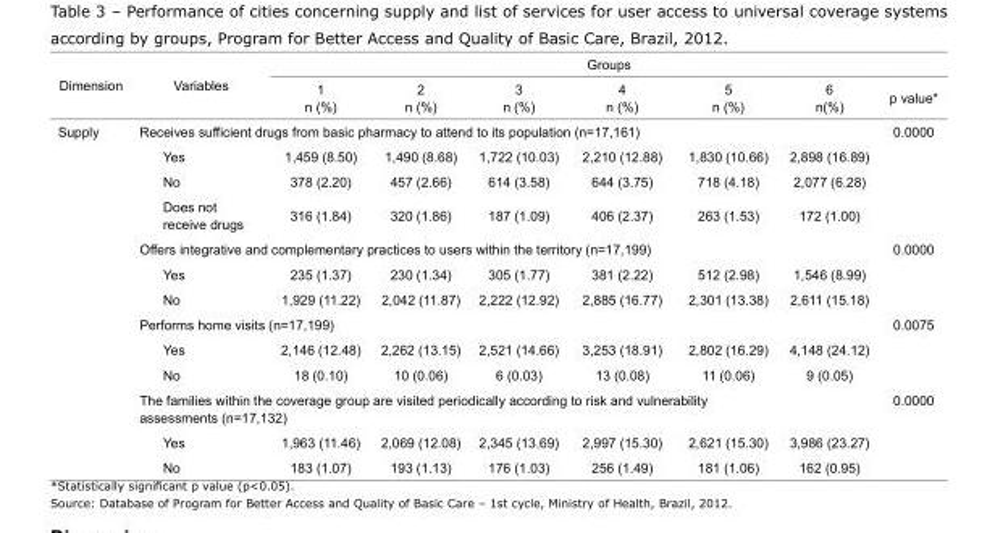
<table><thead><tr><td rowspan="2">Dimension</td><td rowspan="2">Variables</td><td colspan="7">Groups</td></tr><tr><td>1 n (%)</td><td>2 n (%)</td><td>3 n (%)</td><td>4 n (%)</td><td>5 n (%)</td><td>6 n(%)</td><td>p value*</td></tr></thead><tbody><tr><td rowspan="13">Supply</td><td colspan="7">Receives sufficient drugs from basic pharmacy to attend to its population (n=17,161)</td><td>0.0000</td></tr><tr><td>Yes</td><td>1,459 (8.50)</td><td>1,490 (8.68)</td><td>1,722 (10.03)</td><td>2,210 (12.88)</td><td>1,830 (10.66)</td><td>2,898 (16.89)</td><td></td></tr><tr><td>No</td><td>378 (2.20)</td><td>457 (2.66)</td><td>614 (3.58)</td><td>644 (3.75)</td><td>718 (4.18)</td><td>2,077 (6.28)</td><td></td></tr><tr><td>Does not receive drugs</td><td>316 (1.84)</td><td>320 (1.86)</td><td>187 (1.09)</td><td>406 (2.37)</td><td>263 (1.53)</td><td>172 (1.00)</td><td></td></tr><tr><td colspan="7">Offers integrative and complementary practices to users within the territory (n=17,199)</td><td>0.0000</td></tr><tr><td>Yes</td><td>235 (1.37)</td><td>230 (1.34)</td><td>305 (1.77)</td><td>381 (2.22)</td><td>512 (2.98)</td><td>1,546 (8.99)</td><td></td></tr><tr><td>No</td><td>1,929 (11.22)</td><td>2,042 (11.87)</td><td>2,222 (12.92)</td><td>2,885 (16.77)</td><td>2,301 (13.38)</td><td>2,611 (15.18)</td><td></td></tr><tr><td colspan="7">Performs home visits (n=17,199)</td><td>0.0075</td></tr><tr><td>Yes</td><td>2,146 (12.48)</td><td>2,262 (13.15)</td><td>2,521 (14.66)</td><td>3,253 (18.91)</td><td>2,802 (16.29)</td><td>4,148 (24.12)</td><td></td></tr><tr><td>No</td><td>18 (0.10)</td><td>10 (0.06)</td><td>6 (0.03)</td><td>13 (0.08)</td><td>11 (0.06)</td><td>9 (0.05)</td><td></td></tr><tr><td colspan="7">The families within the coverage group are visited periodically according to risk and vulnerability assessments (n=17,132)</td><td>0.0000</td></tr><tr><td>Yes</td><td>1,963 (11.46)</td><td>2,069 (12.08)</td><td>2,345 (13.69)</td><td>2,997 (15.30)</td><td>2,621 (15.30)</td><td>3,986 (23.27)</td><td></td></tr><tr><td>No</td><td>183 (1.07)</td><td>193 (1.13)</td><td>176 (1.03)</td><td>256 (1.49)</td><td>181 (1.06)</td><td>162 (0.95)</td><td></td></tr></tbody></table>